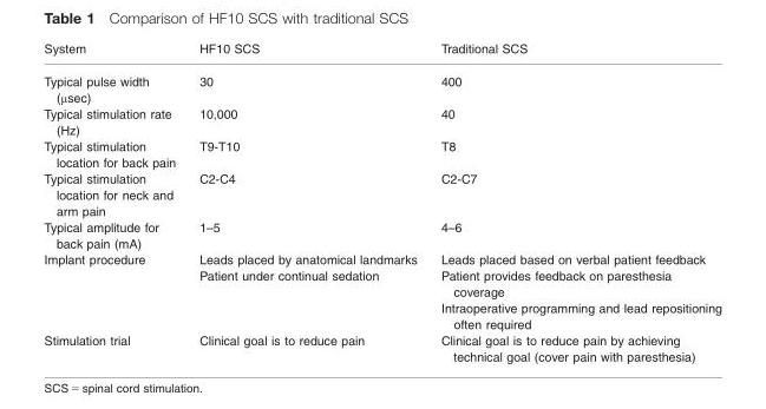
<table><thead><tr><td>System</td><td>HF10 SCS</td><td>Traditional SCS</td></tr></thead><tbody><tr><td>Typical pulse width (μsec)</td><td>30</td><td>400</td></tr><tr><td>Typical stimulation rate (Hz)</td><td>10,000</td><td>40</td></tr><tr><td>Typical stimulation location for back pain</td><td>T9-T10</td><td>T8</td></tr><tr><td>Typical stimulation location for neck and arm pain</td><td>C2-C4</td><td>C2-C7</td></tr><tr><td>Typical amplitude for back pain (mA)</td><td>1–5</td><td>4–6</td></tr><tr><td>Implant procedure</td><td>Leads placed by anatomical landmarks Patient under continual sedation</td><td>Leads placed based on verbal patient feedback Patient provides feedback on paresthesia coverage Intraoperative programming and lead repositioning often required</td></tr><tr><td>Stimulation trial</td><td>Clinical goal is to reduce pain</td><td>Clinical goal is to reduce pain by achieving technical goal (cover pain with paresthesia)</td></tr></tbody></table>